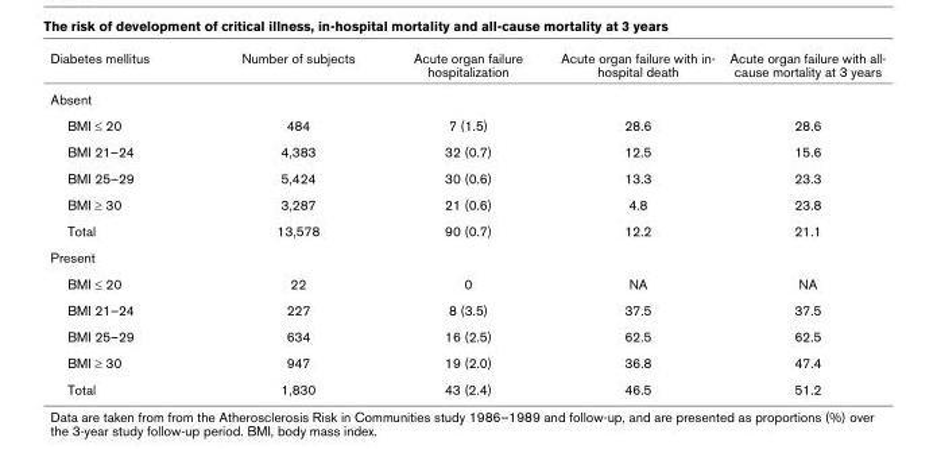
<table><thead><tr><td>Diabetes mellitus</td><td>Number of subjects</td><td>Acute organ failure hospitalization</td><td>Acute organ failure with in- hospital death</td><td>Acute organ failure with all- cause mortality at 3 years</td></tr></thead><tbody><tr><td colspan="5">Absent</td></tr><tr><td>BMI ≤ 20</td><td>484</td><td>7 (1.5)</td><td>28.6</td><td>28.6</td></tr><tr><td>BMI 21–24</td><td>4,383</td><td>32 (0.7)</td><td>12.5</td><td>15.6</td></tr><tr><td>BMI 25–29</td><td>5,424</td><td>30 (0.6)</td><td>13.3</td><td>23.3</td></tr><tr><td>BMI ≥ 30</td><td>3,287</td><td>21 (0.6)</td><td>4.8</td><td>23.8</td></tr><tr><td>Total</td><td>13,578</td><td>90 (0.7)</td><td>12.2</td><td>21.1</td></tr><tr><td colspan="5">Present</td></tr><tr><td>BMI ≤ 20</td><td>22</td><td>0</td><td>NA</td><td>NA</td></tr><tr><td>BMI 21–24</td><td>227</td><td>8 (3.5)</td><td>37.5</td><td>37.5</td></tr><tr><td>BMI 25–29</td><td>634</td><td>16 (2.5)</td><td>62.5</td><td>62.5</td></tr><tr><td>BMI ≥ 30</td><td>947</td><td>19 (2.0)</td><td>36.8</td><td>47.4</td></tr><tr><td>Total</td><td>1,830</td><td>43 (2.4)</td><td>46.5</td><td>51.2</td></tr></tbody></table>